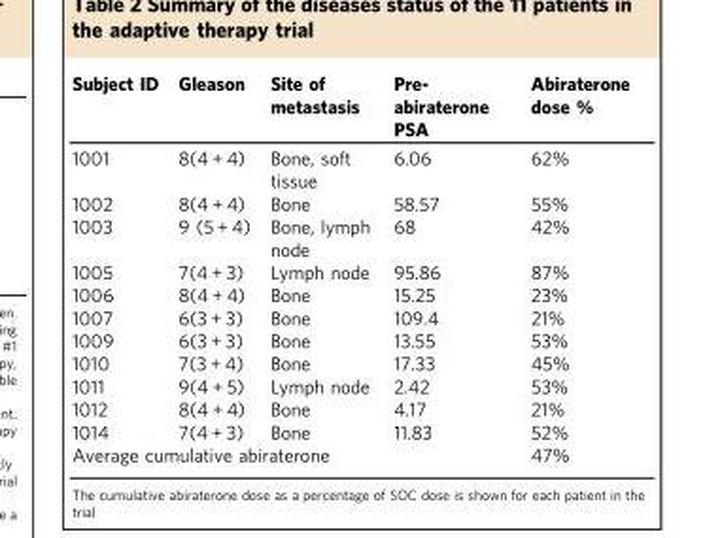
<table><thead><tr><td>Subject ID</td><td>Gleason</td><td>Site of metastasis</td><td>Pre- abiraterone PSA</td><td>Abiraterone dose %</td></tr></thead><tbody><tr><td>1001</td><td>8(4 + 4)</td><td>Bone, soft tissue</td><td>6.06</td><td>62%</td></tr><tr><td>1002</td><td>8(4 + 4)</td><td>Bone</td><td>58.57</td><td>55%</td></tr><tr><td>1003</td><td>9 (5 + 4)</td><td>Bone, lymph node</td><td>68</td><td>42%</td></tr><tr><td>1005</td><td>7(4 + 3)</td><td>Lymph node</td><td>95.86</td><td>87%</td></tr><tr><td>1006</td><td>8(4 + 4)</td><td>Bone</td><td>15.25</td><td>23%</td></tr><tr><td>1007</td><td>6(3 + 3)</td><td>Bone</td><td>109.4</td><td>21%</td></tr><tr><td>1009</td><td>6(3 + 3)</td><td>Bone</td><td>13.55</td><td>53%</td></tr><tr><td>1010</td><td>7(3 + 4)</td><td>Bone</td><td>17.33</td><td>45%</td></tr><tr><td>1011</td><td>9(4 + 5)</td><td>Lymph node</td><td>2.42</td><td>53%</td></tr><tr><td>1012</td><td>8(4 + 4)</td><td>Bone</td><td>4.17</td><td>21%</td></tr><tr><td>1014</td><td>7(4 + 3)</td><td>Bone</td><td>11.83</td><td>52%</td></tr><tr><td colspan="4">Average cumulative abiraterone</td><td>47%</td></tr></tbody></table>